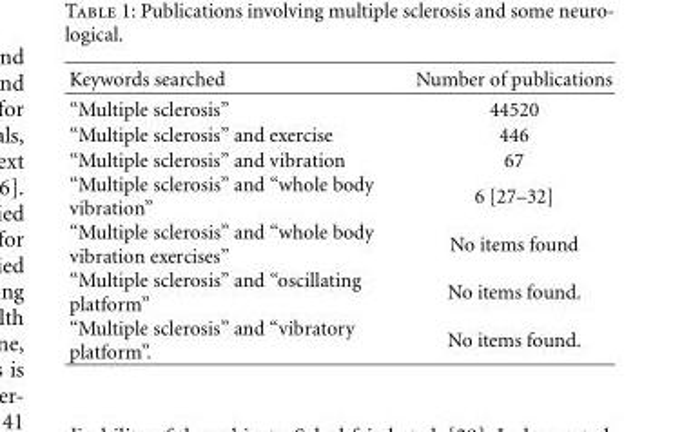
<table><thead><tr><td>Keywords searched</td><td>Number of publications</td></tr></thead><tbody><tr><td>“Multiple sclerosis”</td><td>44520</td></tr><tr><td>“Multiple sclerosis” and exercise</td><td>446</td></tr><tr><td>“Multiple sclerosis” and vibration</td><td>67</td></tr><tr><td>“Multiple sclerosis” and “whole body vibration”</td><td>6 [27–32]</td></tr><tr><td>“Multiple sclerosis” and “whole body vibration exercises”</td><td>No items found</td></tr><tr><td>“Multiple sclerosis” and “oscillating platform”</td><td>No items found.</td></tr><tr><td>“Multiple sclerosis” and “vibratory platform”.</td><td>No items found.</td></tr></tbody></table>